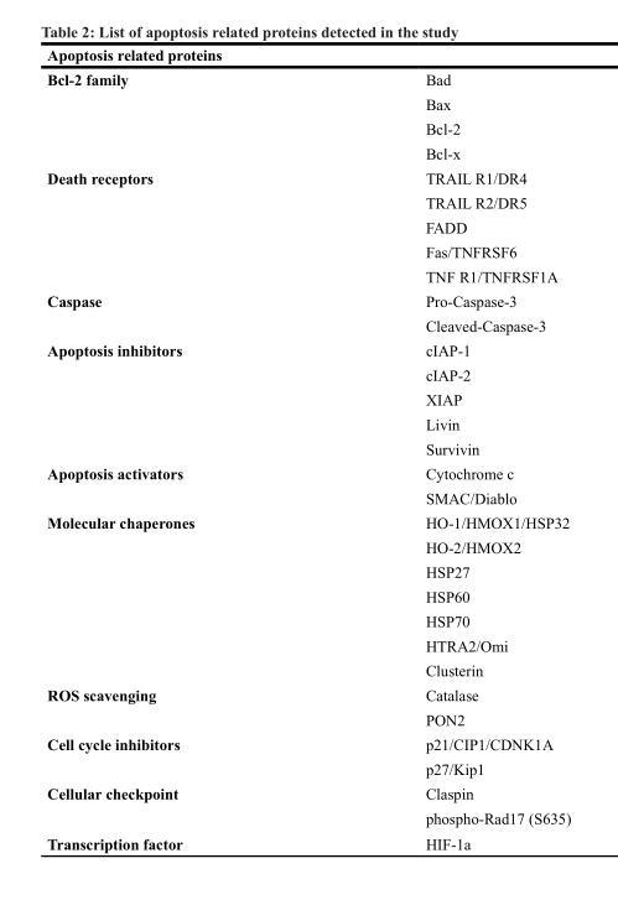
<table><thead><tr><td colspan="2">Apoptosis related proteins</td></tr><tr><td>Bcl-2 family</td><td>Bad</td></tr></thead><tbody><tr><td></td><td>Bax</td></tr><tr><td></td><td>Bcl-2</td></tr><tr><td></td><td>Bcl-x</td></tr><tr><td rowspan="5">Death receptors</td><td>TRAIL R1/DR4</td></tr><tr><td>TRAIL R2/DR5</td></tr><tr><td>FADD</td></tr><tr><td>Fas/TNFRSF6</td></tr><tr><td>TNF R1/TNFRSF1A</td></tr><tr><td rowspan="2">Caspase</td><td>Pro-Caspase-3</td></tr><tr><td>Cleaved-Caspase-3</td></tr><tr><td rowspan="5">Apoptosis inhibitors</td><td>cIAP-1</td></tr><tr><td>cIAP-2</td></tr><tr><td>XIAP</td></tr><tr><td>Livin</td></tr><tr><td>Survivin</td></tr><tr><td rowspan="2">Apoptosis activators</td><td>Cytochrome c</td></tr><tr><td>SMAC/Diablo</td></tr><tr><td rowspan="7">Molecular chaperones</td><td>HO-1/HMOX1/HSP32</td></tr><tr><td>HO-2/HMOX2</td></tr><tr><td>HSP27</td></tr><tr><td>HSP60</td></tr><tr><td>HSP70</td></tr><tr><td>HTRA2/Omi</td></tr><tr><td>Clusterin</td></tr><tr><td rowspan="2">ROS scavenging</td><td>Catalase</td></tr><tr><td>PON2</td></tr><tr><td rowspan="2">Cell cycle inhibitors</td><td>p21/CIP1/CDNK1A</td></tr><tr><td>p27/Kip1</td></tr><tr><td rowspan="2">Cellular checkpoint</td><td>Claspin</td></tr><tr><td>phospho-Rad17 (S635)</td></tr><tr><td>Transcription factor</td><td>HIF-1a</td></tr></tbody></table>